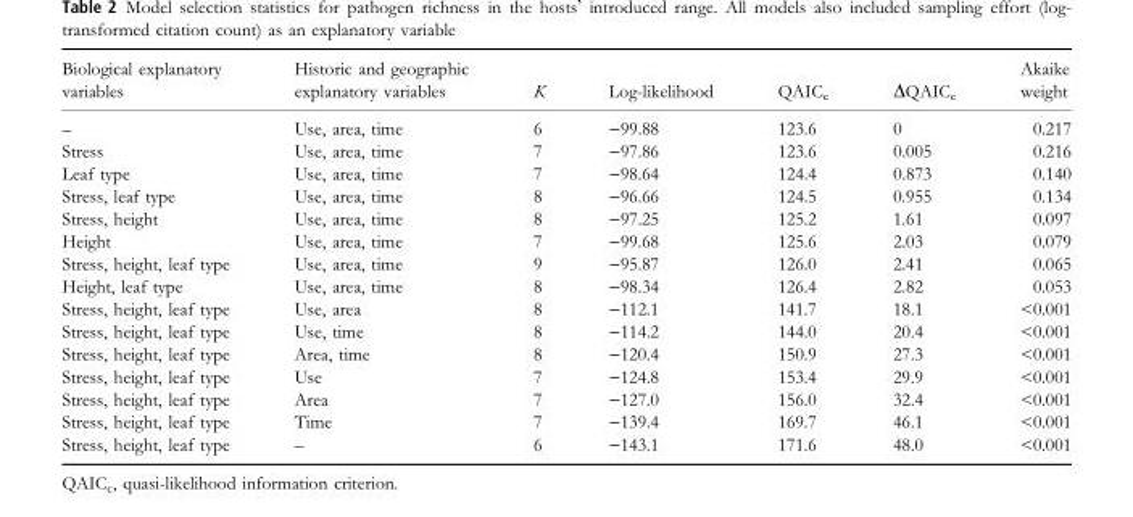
<table><thead><tr><td>Biological explanatory variables</td><td>Historic and geographic explanatory variables</td><td>K</td><td>Log-likelihood</td><td>QAIC<sub>c</sub></td><td>ΔQAIC<sub>c</sub></td><td>Akaike weight</td></tr></thead><tbody><tr><td>–</td><td>Use, area, time</td><td>6</td><td>−99.88</td><td>123.6</td><td>0</td><td>0.217</td></tr><tr><td>Stress</td><td>Use, area, time</td><td>7</td><td>−97.86</td><td>123.6</td><td>0.005</td><td>0.216</td></tr><tr><td>Leaf type</td><td>Use, area, time</td><td>7</td><td>−98.64</td><td>124.4</td><td>0.873</td><td>0.140</td></tr><tr><td>Stress, leaf type</td><td>Use, area, time</td><td>8</td><td>−96.66</td><td>124.5</td><td>0.955</td><td>0.134</td></tr><tr><td>Stress, height</td><td>Use, area, time</td><td>8</td><td>−97.25</td><td>125.2</td><td>1.61</td><td>0.097</td></tr><tr><td>Height</td><td>Use, area, time</td><td>7</td><td>−99.68</td><td>125.6</td><td>2.03</td><td>0.079</td></tr><tr><td>Stress, height, leaf type</td><td>Use, area, time</td><td>9</td><td>−95.87</td><td>126.0</td><td>2.41</td><td>0.065</td></tr><tr><td>Height, leaf type</td><td>Use, area, time</td><td>8</td><td>−98.34</td><td>126.4</td><td>2.82</td><td>0.053</td></tr><tr><td>Stress, height, leaf type</td><td>Use, area</td><td>8</td><td>−112.1</td><td>141.7</td><td>18.1</td><td>&lt;0.001</td></tr><tr><td>Stress, height, leaf type</td><td>Use, time</td><td>8</td><td>−114.2</td><td>144.0</td><td>20.4</td><td>&lt;0.001</td></tr><tr><td>Stress, height, leaf type</td><td>Area, time</td><td>8</td><td>−120.4</td><td>150.9</td><td>27.3</td><td>&lt;0.001</td></tr><tr><td>Stress, height, leaf type</td><td>Use</td><td>7</td><td>−124.8</td><td>153.4</td><td>29.9</td><td>&lt;0.001</td></tr><tr><td>Stress, height, leaf type</td><td>Area</td><td>7</td><td>−127.0</td><td>156.0</td><td>32.4</td><td>&lt;0.001</td></tr><tr><td>Stress, height, leaf type</td><td>Time</td><td>7</td><td>−139.4</td><td>169.7</td><td>46.1</td><td>&lt;0.001</td></tr><tr><td>Stress, height, leaf type</td><td>–</td><td>6</td><td>−143.1</td><td>171.6</td><td>48.0</td><td>&lt;0.001</td></tr></tbody></table>